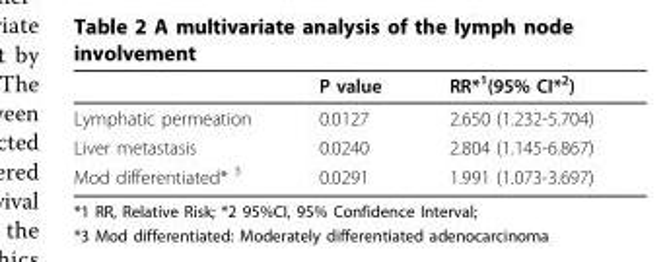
<table><thead><tr><td></td><td>P value</td><td>RR*<sup>1</sup>(95% CI*<sup>2</sup>)</td></tr></thead><tbody><tr><td>Lymphatic permeation</td><td>0.0127</td><td>2.650 (1.232-5.704)</td></tr><tr><td>Liver metastasis</td><td>0.0240</td><td>2.804 (1.145-6.867)</td></tr><tr><td>Mod differentiated* <sup>3</sup></td><td>0.0291</td><td>1.991 (1.073-3.697)</td></tr></tbody></table>